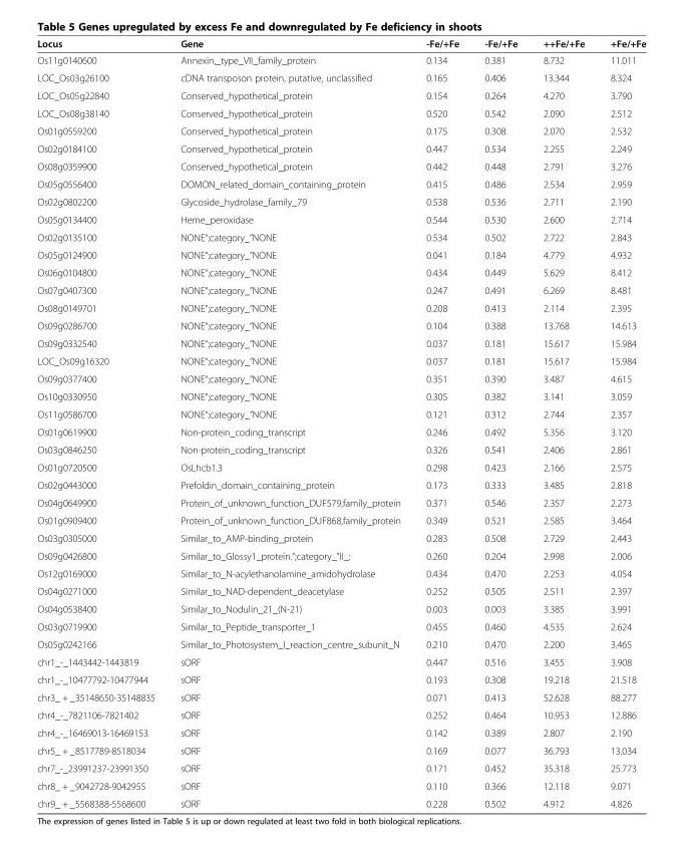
<table><thead><tr><td>Locus</td><td>Gene</td><td>-Fe/+Fe</td><td>-Fe/+Fe</td><td>++Fe/+Fe</td><td>+Fe/+Fe</td></tr></thead><tbody><tr><td>Os11g0140600</td><td>Annexin,_type_VII_family_protein</td><td>0.134</td><td>0.381</td><td>8.732</td><td>11.011</td></tr><tr><td>LOC_Os03g26100</td><td>cDNA transposon protein, putative, unclassified</td><td>0.165</td><td>0.406</td><td>13.344</td><td>8.324</td></tr><tr><td>LOC_Os05g22840</td><td>Conserved_hypothetical_protein</td><td>0.154</td><td>0.264</td><td>4.270</td><td>3.790</td></tr><tr><td>LOC_Os08g38140</td><td>Conserved_hypothetical_protein</td><td>0.520</td><td>0.542</td><td>2.090</td><td>2.512</td></tr><tr><td>Os01g0559200</td><td>Conserved_hypothetical_protein</td><td>0.175</td><td>0.308</td><td>2.070</td><td>2.532</td></tr><tr><td>Os02g0184100</td><td>Conserved_hypothetical_protein</td><td>0.447</td><td>0.534</td><td>2.255</td><td>2.249</td></tr><tr><td>Os08g0359900</td><td>Conserved_hypothetical_protein</td><td>0.442</td><td>0.448</td><td>2.791</td><td>3.276</td></tr><tr><td>Os05g0556400</td><td>DOMON_related_domain_containing_protein</td><td>0.415</td><td>0.486</td><td>2.534</td><td>2.959</td></tr><tr><td>Os02g0802200</td><td>Glycoside_hydrolase_family_79</td><td>0.538</td><td>0.536</td><td>2.711</td><td>2.190</td></tr><tr><td>Os05g0134400</td><td>Heme_peroxidase</td><td>0.544</td><td>0.530</td><td>2.600</td><td>2.714</td></tr><tr><td>Os02g0135100</td><td>NONE“;category_”NONE</td><td>0.534</td><td>0.502</td><td>2.722</td><td>2.843</td></tr><tr><td>Os05g0124900</td><td>NONE“;category_”NONE</td><td>0.041</td><td>0.184</td><td>4.779</td><td>4.932</td></tr><tr><td>Os06g0104800</td><td>NONE“;category_”NONE</td><td>0.434</td><td>0.449</td><td>5.629</td><td>8.412</td></tr><tr><td>Os07g0407300</td><td>NONE“;category_”NONE</td><td>0.247</td><td>0.491</td><td>6.269</td><td>8.481</td></tr><tr><td>Os08g0149701</td><td>NONE“;category_”NONE</td><td>0.208</td><td>0.413</td><td>2.114</td><td>2.395</td></tr><tr><td>Os09g0286700</td><td>NONE“;category_”NONE</td><td>0.104</td><td>0.388</td><td>13.768</td><td>14.613</td></tr><tr><td>Os09g0332540</td><td>NONE“;category_”NONE</td><td>0.037</td><td>0.181</td><td>15.617</td><td>15.984</td></tr><tr><td>LOC_Os09g16320</td><td>NONE“;category_”NONE</td><td>0.037</td><td>0.181</td><td>15.617</td><td>15.984</td></tr><tr><td>Os09g0377400</td><td>NONE“;category_”NONE</td><td>0.351</td><td>0.390</td><td>3.487</td><td>4.615</td></tr><tr><td>Os10g0330950</td><td>NONE“;category_”NONE</td><td>0.305</td><td>0.382</td><td>3.141</td><td>3.059</td></tr><tr><td>Os11g0586700</td><td>NONE“;category_”NONE</td><td>0.121</td><td>0.312</td><td>2.744</td><td>2.357</td></tr><tr><td>Os01g0619900</td><td>Non-protein_coding_transcript</td><td>0.246</td><td>0.492</td><td>5.356</td><td>3.120</td></tr><tr><td>Os03g0846250</td><td>Non-protein_coding_transcript</td><td>0.326</td><td>0.541</td><td>2.406</td><td>2.861</td></tr><tr><td>Os01g0720500</td><td>OsLhcb1.3</td><td>0.298</td><td>0.423</td><td>2.166</td><td>2.575</td></tr><tr><td>Os02g0443000</td><td>Prefoldin_domain_containing_protein</td><td>0.173</td><td>0.333</td><td>3.485</td><td>2.818</td></tr><tr><td>Os04g0649900</td><td>Protein_of_unknown_function_DUF579,family_protein</td><td>0.371</td><td>0.546</td><td>2.357</td><td>2.273</td></tr><tr><td>Os01g0909400</td><td>Protein_of_unknown_function_DUF868,family_protein</td><td>0.349</td><td>0.521</td><td>2.585</td><td>3.464</td></tr><tr><td>Os03g0305000</td><td>Similar_to_AMP-binding_protein</td><td>0.283</td><td>0.508</td><td>2.729</td><td>2.443</td></tr><tr><td>Os09g0426800</td><td>Similar_to_Glossy1_protein.“;category_”II_:</td><td>0.260</td><td>0.204</td><td>2.998</td><td>2.006</td></tr><tr><td>Os12g0169000</td><td>Similar_to_N-acylethanolamine_amidohydrolase</td><td>0.434</td><td>0.470</td><td>2.253</td><td>4.054</td></tr><tr><td>Os04g0271000</td><td>Similar_to_NAD-dependent_deacetylase</td><td>0.252</td><td>0.505</td><td>2.511</td><td>2.397</td></tr><tr><td>Os04g0538400</td><td>Similar_to_Nodulin_21_(N-21)</td><td>0.003</td><td>0.003</td><td>3.385</td><td>3.991</td></tr><tr><td>Os03g0719900</td><td>Similar_to_Peptide_transporter_1</td><td>0.455</td><td>0.460</td><td>4.535</td><td>2.624</td></tr><tr><td>Os05g0242166</td><td>Similar_to_Photosystem_I_reaction_centre_subunit_N</td><td>0.210</td><td>0.470</td><td>2.200</td><td>3.465</td></tr><tr><td>chr1_-_1443442-1443819</td><td>sORF</td><td>0.447</td><td>0.516</td><td>3.455</td><td>3.908</td></tr><tr><td>chr1_-_10477792-10477944</td><td>sORF</td><td>0.193</td><td>0.308</td><td>19.218</td><td>21.518</td></tr><tr><td>chr3_ + _35148650-35148835</td><td>sORF</td><td>0.071</td><td>0.413</td><td>52.628</td><td>88.277</td></tr><tr><td>chr4_-_7821106-7821402</td><td>sORF</td><td>0.252</td><td>0.464</td><td>10.953</td><td>12.886</td></tr><tr><td>chr4_-_16469013-16469153</td><td>sORF</td><td>0.142</td><td>0.389</td><td>2.807</td><td>2.190</td></tr><tr><td>chr5_ + _8517789-8518034</td><td>sORF</td><td>0.169</td><td>0.077</td><td>36.793</td><td>13.034</td></tr><tr><td>chr7_-_23991237-23991350</td><td>sORF</td><td>0.171</td><td>0.452</td><td>35.318</td><td>25.773</td></tr><tr><td>chr8_ + _9042728-9042955</td><td>sORF</td><td>0.110</td><td>0.366</td><td>12.118</td><td>9.071</td></tr><tr><td>chr9_ + _5568388-5568600</td><td>sORF</td><td>0.228</td><td>0.502</td><td>4.912</td><td>4.826</td></tr></tbody></table>